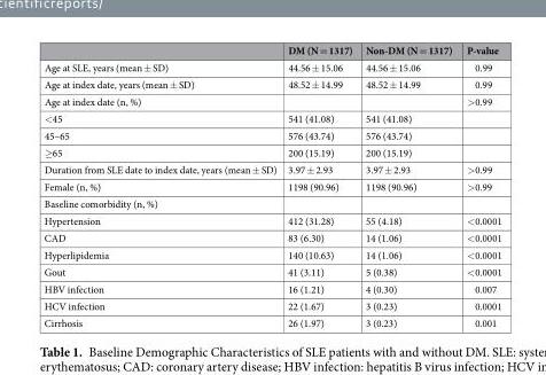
<table><thead><tr><td></td><td>DM (N = 1317)</td><td>Non-DM (N = 1317)</td><td>P-value</td></tr></thead><tbody><tr><td>Age at SLE, years (mean ± SD)</td><td>44.56 ± 15.06</td><td>44.56 ± 15.06</td><td>0.99</td></tr><tr><td>Age at index date, years (mean ± SD)</td><td>48.52 ± 14.99</td><td>48.52 ± 14.99</td><td>0.99</td></tr><tr><td>Age at index date (n, %)</td><td></td><td></td><td>&gt;0.99</td></tr><tr><td>&lt;45</td><td>541 (41.08)</td><td>541 (41.08)</td><td></td></tr><tr><td>45–65</td><td>576 (43.74)</td><td>576 (43.74)</td><td></td></tr><tr><td>≥65</td><td>200 (15.19)</td><td>200 (15.19)</td><td></td></tr><tr><td>Duration from SLE date to index date, years (mean ± SD)</td><td>3.97 ± 2.93</td><td>3.97 ± 2.93</td><td>&gt;0.99</td></tr><tr><td>Female (n, %)</td><td>1198 (90.96)</td><td>1198 (90.96)</td><td>&gt;0.99</td></tr><tr><td colspan="4">Baseline comorbidity (n, %)</td></tr><tr><td>Hypertension</td><td>412 (31.28)</td><td>55 (4.18)</td><td>&lt;0.0001</td></tr><tr><td>CAD</td><td>83 (6.30)</td><td>14 (1.06)</td><td>&lt;0.0001</td></tr><tr><td>Hyperlipidemia</td><td>140 (10.63)</td><td>14 (1.06)</td><td>&lt;0.0001</td></tr><tr><td>Gout</td><td>41 (3.11)</td><td>5 (0.38)</td><td>&lt;0.0001</td></tr><tr><td>HBV infection</td><td>16 (1.21)</td><td>4 (0.30)</td><td>0.007</td></tr><tr><td>HCV infection</td><td>22 (1.67)</td><td>3 (0.23)</td><td>0.0001</td></tr><tr><td>Cirrhosis</td><td>26 (1.97)</td><td>3 (0.23)</td><td>0.001</td></tr></tbody></table>